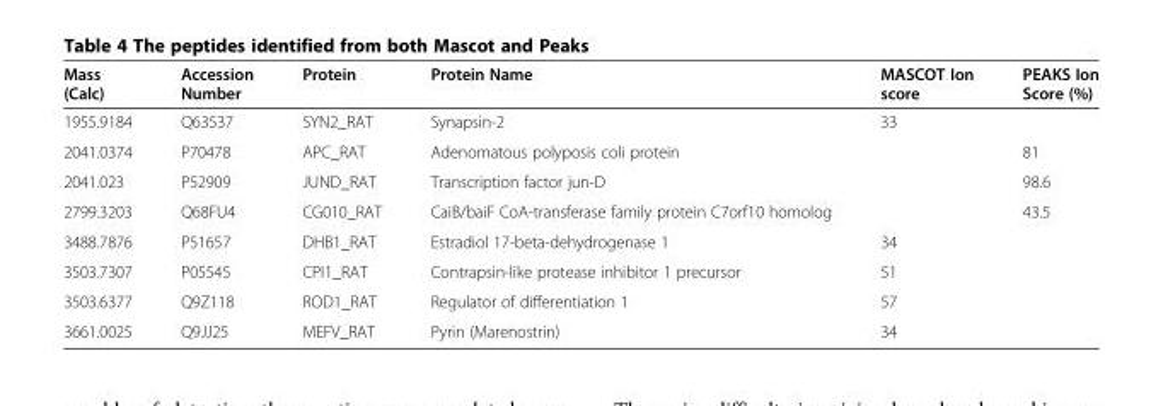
<table><thead><tr><td>Mass (Calc)</td><td>Accession Number</td><td>Protein</td><td>Protein Name</td><td>MASCOT Ion score</td><td>PEAKS Ion Score (%)</td></tr></thead><tbody><tr><td>1955.9184</td><td>Q63537</td><td>SYN2_RAT</td><td>Synapsin-2</td><td>33</td><td></td></tr><tr><td>2041.0374</td><td>P70478</td><td>APC_RAT</td><td>Adenomatous polyposis coli protein</td><td></td><td>81</td></tr><tr><td>2041.023</td><td>P52909</td><td>JUND_RAT</td><td>Transcription factor jun-D</td><td></td><td>98.6</td></tr><tr><td>2799.3203</td><td>Q68FU4</td><td>CG010_RAT</td><td>CaiB/baiF CoA-transferase family protein C7orf10 homolog</td><td></td><td>43.5</td></tr><tr><td>3488.7876</td><td>P51657</td><td>DHB1_RAT</td><td>Estradiol 17-beta-dehydrogenase 1</td><td>34</td><td></td></tr><tr><td>3503.7307</td><td>P05545</td><td>CPI1_RAT</td><td>Contrapsin-like protease inhibitor 1 precursor</td><td>51</td><td></td></tr><tr><td>3503.6377</td><td>Q9Z118</td><td>ROD1_RAT</td><td>Regulator of differentiation 1</td><td>57</td><td></td></tr><tr><td>3661.0025</td><td>Q9JJ25</td><td>MEFV_RAT</td><td>Pyrin (Marenostrin)</td><td>34</td><td></td></tr></tbody></table>